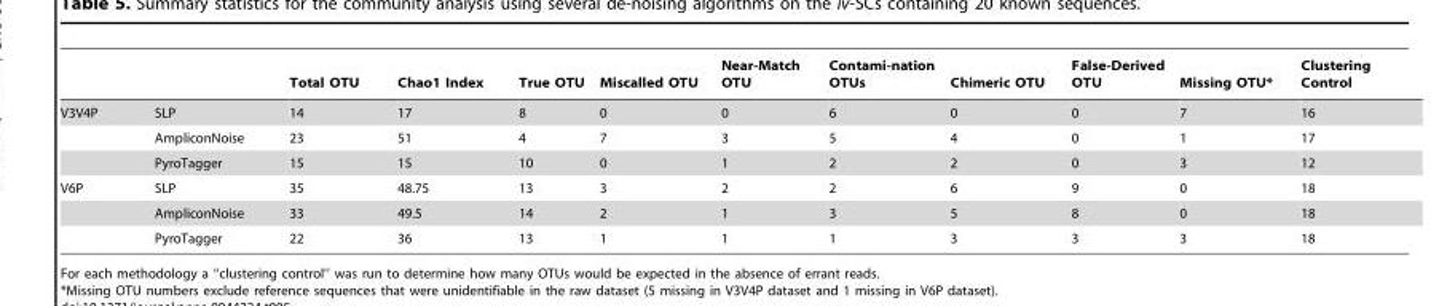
<table><thead><tr><td></td><td></td><td>Total OTU</td><td>Chao1 Index</td><td>True OTU</td><td>Miscalled OTU</td><td>Near-Match OTU</td><td>Contami-nation OTUs</td><td>Chimeric OTU</td><td>False-Derived OTU</td><td>Missing OTU*</td><td>Clustering Control</td></tr></thead><tbody><tr><td rowspan="3">V3V4P</td><td>SLP</td><td>14</td><td>17</td><td>8</td><td>0</td><td>0</td><td>6</td><td>0</td><td>0</td><td>7</td><td>16</td></tr><tr><td>AmpliconNoise</td><td>23</td><td>51</td><td>4</td><td>7</td><td>3</td><td>5</td><td>4</td><td>0</td><td>1</td><td>17</td></tr><tr><td>PyroTagger</td><td>15</td><td>15</td><td>10</td><td>0</td><td>1</td><td>2</td><td>2</td><td>0</td><td>3</td><td>12</td></tr><tr><td rowspan="3">V6P</td><td>SLP</td><td>35</td><td>48.75</td><td>13</td><td>3</td><td>2</td><td>2</td><td>6</td><td>9</td><td>0</td><td>18</td></tr><tr><td>AmpliconNoise</td><td>33</td><td>49.5</td><td>14</td><td>2</td><td>1</td><td>3</td><td>5</td><td>8</td><td>0</td><td>18</td></tr><tr><td>PyroTagger</td><td>22</td><td>36</td><td>13</td><td>1</td><td>1</td><td>1</td><td>3</td><td>3</td><td>3</td><td>18</td></tr></tbody></table>